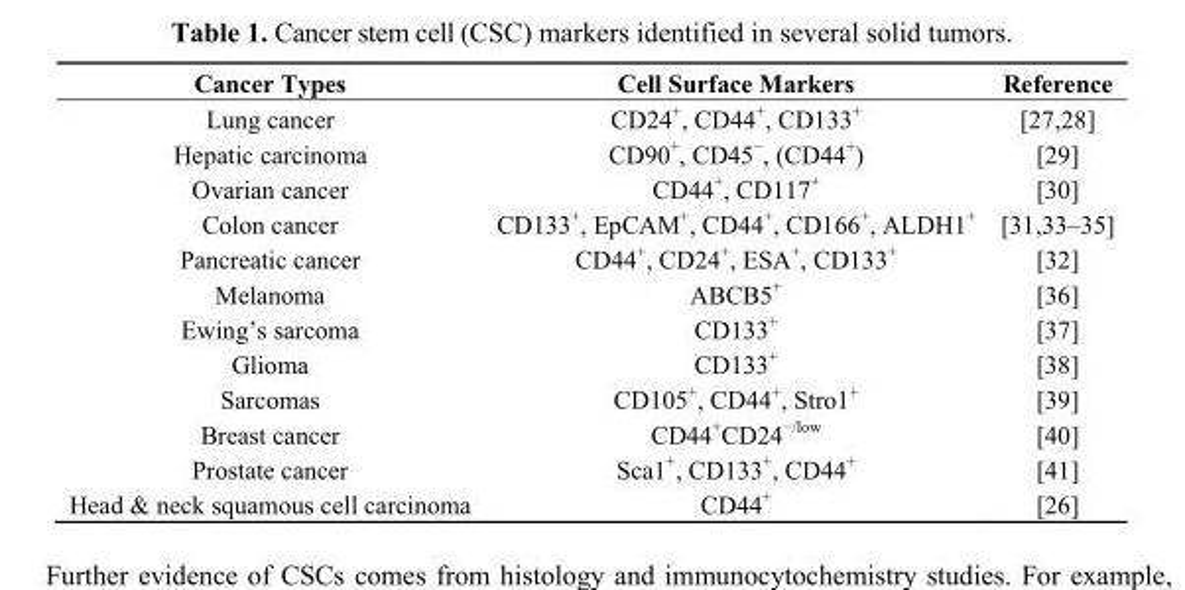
<table><thead><tr><td>Cancer Types</td><td>Cell Surface Markers</td><td>Reference</td></tr></thead><tbody><tr><td>Lung cancer</td><td>CD24<sup>+</sup>, CD44<sup>+</sup>, CD133<sup>+</sup></td><td>[27,28]</td></tr><tr><td>Hepatic carcinoma</td><td>CD90<sup>+</sup>, CD45<sup>−</sup>, (CD44<sup>+</sup>)</td><td>[29]</td></tr><tr><td>Ovarian cancer</td><td>CD44<sup>+</sup>, CD117<sup>+</sup></td><td>[30]</td></tr><tr><td>Colon cancer</td><td>CD133<sup>+</sup>, EpCAM<sup>+</sup>, CD44<sup>+</sup>, CD166<sup>+</sup>, ALDH1<sup>+</sup></td><td>[31,33–35]</td></tr><tr><td>Pancreatic cancer</td><td>CD44<sup>+</sup>, CD24<sup>+</sup>, ESA<sup>+</sup>, CD133<sup>+</sup></td><td>[32]</td></tr><tr><td>Melanoma</td><td>ABCB5<sup>+</sup></td><td>[36]</td></tr><tr><td>Ewing’s sarcoma</td><td>CD133<sup>+</sup></td><td>[37]</td></tr><tr><td>Glioma</td><td>CD133<sup>+</sup></td><td>[38]</td></tr><tr><td>Sarcomas</td><td>CD105<sup>+</sup>, CD44<sup>+</sup>, Stro1<sup>+</sup></td><td>[39]</td></tr><tr><td>Breast cancer</td><td>CD44<sup>+</sup>CD24<sup>−/low</sup></td><td>[40]</td></tr><tr><td>Prostate cancer</td><td>Sca1<sup>+</sup>, CD133<sup>+</sup>, CD44<sup>+</sup></td><td>[41]</td></tr><tr><td>Head &amp; neck squamous cell carcinoma</td><td>CD44<sup>+</sup></td><td>[26]</td></tr></tbody></table>